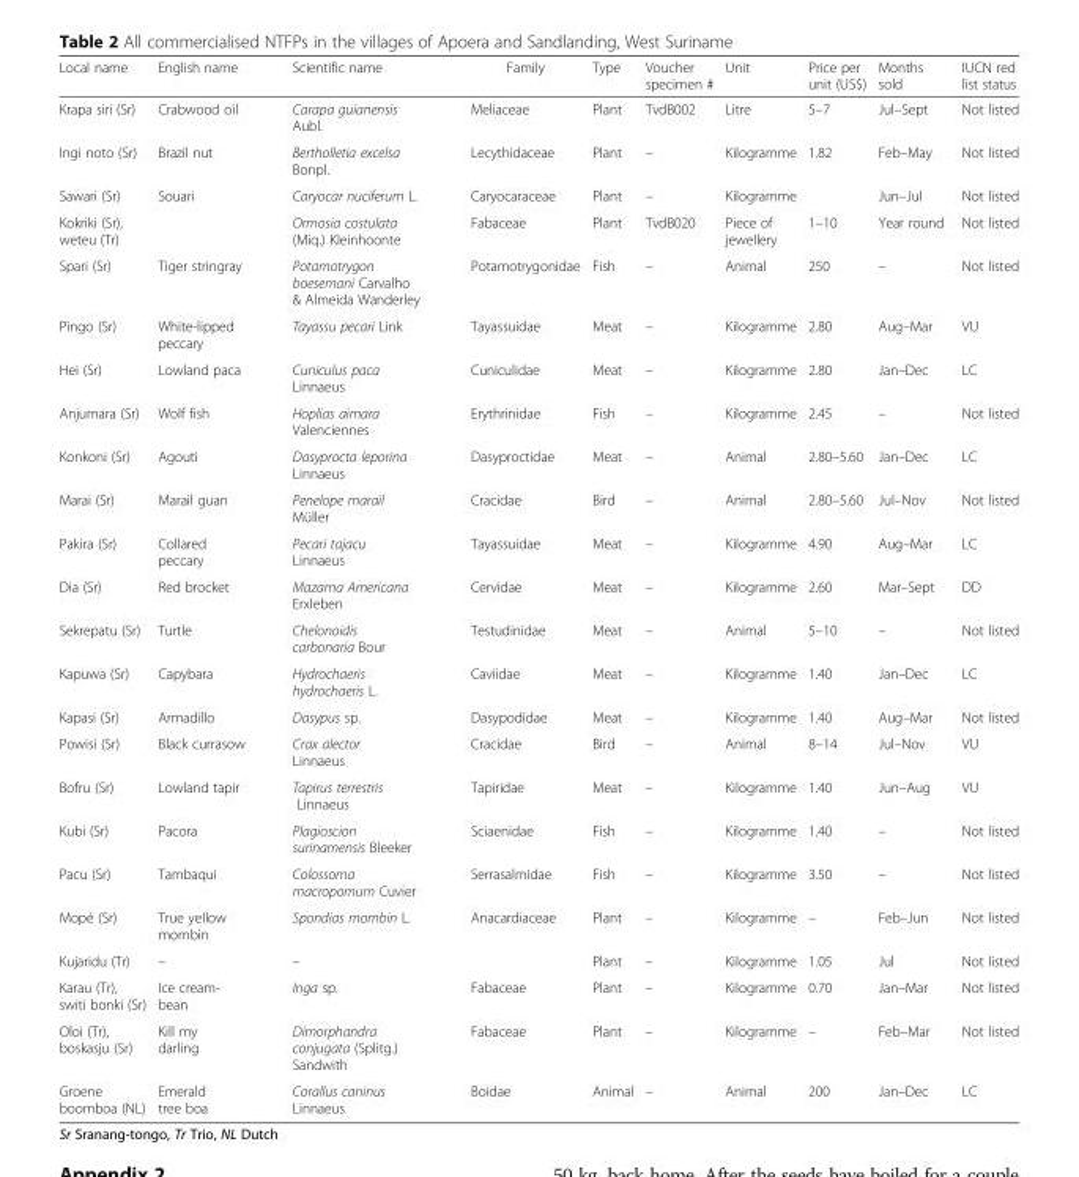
<table><thead><tr><td>Local name</td><td>English name</td><td>Scientific name</td><td>Family</td><td>Type</td><td>Voucher specimen #</td><td>Unit</td><td>Price per unit (US$)</td><td>Months sold</td><td>IUCN red list status</td></tr></thead><tbody><tr><td>Krapa siri (Sr)</td><td>Crabwood oil</td><td>Carapa guianensis Aubl.</td><td>Meliaceae</td><td>Plant</td><td>TvdB002</td><td>Litre</td><td>5–7</td><td>Jul–Sept</td><td>Not listed</td></tr><tr><td>Ingi noto (Sr)</td><td>Brazil nut</td><td>Bertholletia excelsa Bonpl.</td><td>Lecythidaceae</td><td>Plant</td><td>–</td><td>Kilogramme</td><td>1.82</td><td>Feb–May</td><td>Not listed</td></tr><tr><td>Sawari (Sr)</td><td>Souari</td><td>Caryocar nuciferum L.</td><td>Caryocaraceae</td><td>Plant</td><td>–</td><td>Kilogramme</td><td></td><td>Jun–Jul</td><td>Not listed</td></tr><tr><td>Kokriki (Sr), weteu (Tr)</td><td></td><td>Ormosia costulata (Miq.) Kleinhoonte</td><td>Fabaceae</td><td>Plant</td><td>TvdB020</td><td>Piece of jewellery</td><td>1–10</td><td>Year round</td><td>Not listed</td></tr><tr><td>Spari (Sr)</td><td>Tiger stringray</td><td>Potamotrygon boesemani Carvalho &amp; Almeida Wanderley</td><td>Potamotrygonidae</td><td>Fish</td><td>–</td><td>Animal</td><td>250</td><td>–</td><td>Not listed</td></tr><tr><td>Pingo (Sr)</td><td>White-lipped peccary</td><td>Tayassu pecari Link</td><td>Tayassuidae</td><td>Meat</td><td>–</td><td>Kilogramme</td><td>2.80</td><td>Aug–Mar</td><td>VU</td></tr><tr><td>Hei (Sr)</td><td>Lowland paca</td><td>Cuniculus paca Linnaeus</td><td>Cuniculidae</td><td>Meat</td><td>–</td><td>Kilogramme</td><td>2.80</td><td>Jan–Dec</td><td>LC</td></tr><tr><td>Anjumara (Sr)</td><td>Wolf fish</td><td>Hoplias aimara Valenciennes</td><td>Erythrinidae</td><td>Fish</td><td>–</td><td>Kilogramme</td><td>2.45</td><td>–</td><td>Not listed</td></tr><tr><td>Konkoni (Sr)</td><td>Agouti</td><td>Dasyprocta leporina Linnaeus</td><td>Dasyproctidae</td><td>Meat</td><td>–</td><td>Animal</td><td>2.80–5.60</td><td>Jan–Dec</td><td>LC</td></tr><tr><td>Marai (Sr)</td><td>Marail guan</td><td>Penelope marail Müller</td><td>Cracidae</td><td>Bird</td><td>–</td><td>Animal</td><td>2.80–5.60</td><td>Jul–Nov</td><td>Not listed</td></tr><tr><td>Pakira (Sr)</td><td>Collared peccary</td><td>Pecari tajacu Linnaeus</td><td>Tayassuidae</td><td>Meat</td><td>–</td><td>Kilogramme</td><td>4.90</td><td>Aug–Mar</td><td>LC</td></tr><tr><td>Dia (Sr)</td><td>Red brocket</td><td>Mazama Americana Erxleben</td><td>Cervidae</td><td>Meat</td><td>–</td><td>Kilogramme</td><td>2.60</td><td>Mar–Sept</td><td>DD</td></tr><tr><td>Sekrepatu (Sr)</td><td>Turtle</td><td>Chelonoidis carbonaria Bour</td><td>Testudinidae</td><td>Meat</td><td>–</td><td>Animal</td><td>5–10</td><td>–</td><td>Not listed</td></tr><tr><td>Kapuwa (Sr)</td><td>Capybara</td><td>Hydrochaeris hydrochaeris L.</td><td>Caviidae</td><td>Meat</td><td>–</td><td>Kilogramme</td><td>1.40</td><td>Jan–Dec</td><td>LC</td></tr><tr><td>Kapasi (Sr)</td><td>Armadillo</td><td>Dasypus sp.</td><td>Dasypodidae</td><td>Meat</td><td>–</td><td>Kilogramme</td><td>1.40</td><td>Aug–Mar</td><td>Not listed</td></tr><tr><td>Powisi (Sr)</td><td>Black currasow</td><td>Crax alector Linnaeus</td><td>Cracidae</td><td>Bird</td><td>–</td><td>Animal</td><td>8–14</td><td>Jul–Nov</td><td>VU</td></tr><tr><td>Bofru (Sr)</td><td>Lowland tapir</td><td>Tapirus terrestris Linnaeus</td><td>Tapiridae</td><td>Meat</td><td>–</td><td>Kilogramme</td><td>1.40</td><td>Jun–Aug</td><td>VU</td></tr><tr><td>Kubi (Sr)</td><td>Pacora</td><td>Plagioscion surinamensis Bleeker</td><td>Sciaenidae</td><td>Fish</td><td>–</td><td>Kilogramme</td><td>1.40</td><td>–</td><td>Not listed</td></tr><tr><td>Pacu (Sr)</td><td>Tambaqui</td><td>Colossoma macropomum Cuvier</td><td>Serrasalmidae</td><td>Fish</td><td>–</td><td>Kilogramme</td><td>3.50</td><td>–</td><td>Not listed</td></tr><tr><td>Mopé (Sr)</td><td>True yellow mombin</td><td>Spondias mombin L.</td><td>Anacardiaceae</td><td>Plant</td><td>–</td><td>Kilogramme</td><td>–</td><td>Feb–Jun</td><td>Not listed</td></tr><tr><td>Kujaridu (Tr)</td><td>–</td><td>–</td><td></td><td>Plant</td><td>–</td><td>Kilogramme</td><td>1.05</td><td>Jul</td><td>Not listed</td></tr><tr><td>Karau (Tr), switi bonki (Sr)</td><td>Ice cream- bean</td><td>Inga sp.</td><td>Fabaceae</td><td>Plant</td><td>–</td><td>Kilogramme</td><td>0.70</td><td>Jan–Mar</td><td>Not listed</td></tr><tr><td>Oloi (Tr), boskasju (Sr)</td><td>Kill my darling</td><td>Dimorphandra conjugata (Splitg.) Sandwith</td><td>Fabaceae</td><td>Plant</td><td>–</td><td>Kilogramme</td><td>–</td><td>Feb–Mar</td><td>Not listed</td></tr><tr><td>Groene boomboa (NL)</td><td>Emerald tree boa</td><td>Corallus caninus Linnaeus</td><td>Boidae</td><td>Animal</td><td>–</td><td>Animal</td><td>200</td><td>Jan–Dec</td><td>LC</td></tr></tbody></table>